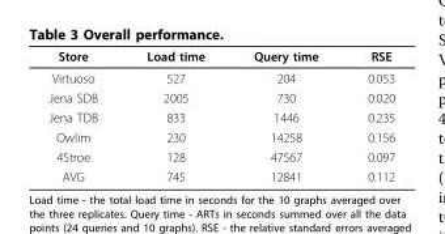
<table><thead><tr><td>Store</td><td>Load time</td><td>Query time</td><td>RSE</td></tr></thead><tbody><tr><td>Virtuoso</td><td>527</td><td>204</td><td>0.053</td></tr><tr><td>Jena SDB</td><td>2005</td><td>730</td><td>0.020</td></tr><tr><td>Jena TDB</td><td>833</td><td>1446</td><td>0.235</td></tr><tr><td>Owlim</td><td>230</td><td>14258</td><td>0.156</td></tr><tr><td>4Stroe</td><td>128</td><td>47567</td><td>0.097</td></tr><tr><td>AVG</td><td>745</td><td>12841</td><td>0.112</td></tr></tbody></table>